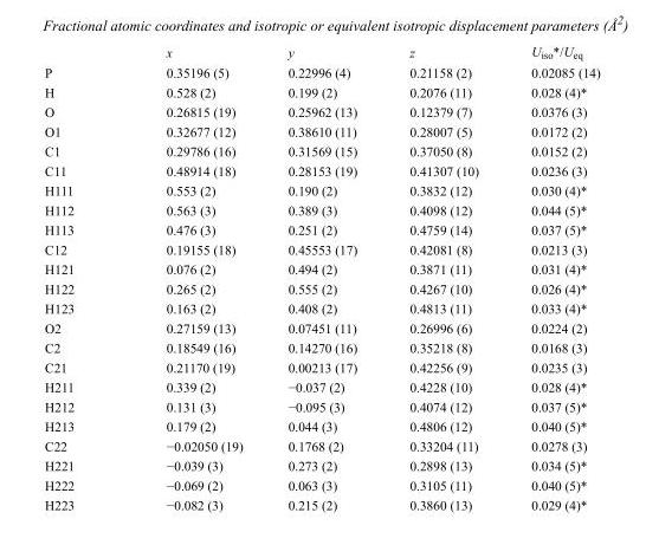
<table><thead><tr><td></td><td>x</td><td>y</td><td>z</td><td>U<sub>iso</sub>*/U<sub>eq</sub></td></tr></thead><tbody><tr><td>P</td><td>0.35196 (5)</td><td>0.22996 (4)</td><td>0.21158 (2)</td><td>0.02085 (14)</td></tr><tr><td>H</td><td>0.528 (2)</td><td>0.199 (2)</td><td>0.2076 (11)</td><td>0.028 (4)*</td></tr><tr><td>O</td><td>0.26815 (19)</td><td>0.25962 (13)</td><td>0.12379 (7)</td><td>0.0376 (3)</td></tr><tr><td>O1</td><td>0.32677 (12)</td><td>0.38610 (11)</td><td>0.28007 (5)</td><td>0.0172 (2)</td></tr><tr><td>C1</td><td>0.29786 (16)</td><td>0.31569 (15)</td><td>0.37050 (8)</td><td>0.0152 (2)</td></tr><tr><td>C11</td><td>0.48914 (18)</td><td>0.28153 (19)</td><td>0.41307 (10)</td><td>0.0236 (3)</td></tr><tr><td>H111</td><td>0.553 (2)</td><td>0.190 (2)</td><td>0.3832 (12)</td><td>0.030 (4)*</td></tr><tr><td>H112</td><td>0.563 (3)</td><td>0.389 (3)</td><td>0.4098 (12)</td><td>0.044 (5)*</td></tr><tr><td>H113</td><td>0.476 (3)</td><td>0.251 (2)</td><td>0.4759 (14)</td><td>0.037 (5)*</td></tr><tr><td>C12</td><td>0.19155 (18)</td><td>0.45553 (17)</td><td>0.42081 (8)</td><td>0.0213 (3)</td></tr><tr><td>H121</td><td>0.076 (2)</td><td>0.494 (2)</td><td>0.3871 (11)</td><td>0.031 (4)*</td></tr><tr><td>H122</td><td>0.265 (2)</td><td>0.555 (2)</td><td>0.4267 (10)</td><td>0.026 (4)*</td></tr><tr><td>H123</td><td>0.163 (2)</td><td>0.408 (2)</td><td>0.4813 (11)</td><td>0.033 (4)*</td></tr><tr><td>O2</td><td>0.27159 (13)</td><td>0.07451 (11)</td><td>0.26996 (6)</td><td>0.0224 (2)</td></tr><tr><td>C2</td><td>0.18549 (16)</td><td>0.14270 (16)</td><td>0.35218 (8)</td><td>0.0168 (3)</td></tr><tr><td>C21</td><td>0.21170 (19)</td><td>0.00213 (17)</td><td>0.42256 (9)</td><td>0.0235 (3)</td></tr><tr><td>H211</td><td>0.339 (2)</td><td>−0.037 (2)</td><td>0.4228 (10)</td><td>0.028 (4)*</td></tr><tr><td>H212</td><td>0.131 (3)</td><td>−0.095 (3)</td><td>0.4074 (12)</td><td>0.037 (5)*</td></tr><tr><td>H213</td><td>0.179 (2)</td><td>0.044 (3)</td><td>0.4806 (12)</td><td>0.040 (5)*</td></tr><tr><td>C22</td><td>−0.02050 (19)</td><td>0.1768 (2)</td><td>0.33204 (11)</td><td>0.0278 (3)</td></tr><tr><td>H221</td><td>−0.039 (3)</td><td>0.273 (2)</td><td>0.2898 (13)</td><td>0.034 (5)*</td></tr><tr><td>H222</td><td>−0.069 (2)</td><td>0.063 (3)</td><td>0.3105 (11)</td><td>0.040 (5)*</td></tr><tr><td>H223</td><td>−0.082 (3)</td><td>0.215 (2)</td><td>0.3860 (13)</td><td>0.029 (4)*</td></tr></tbody></table>